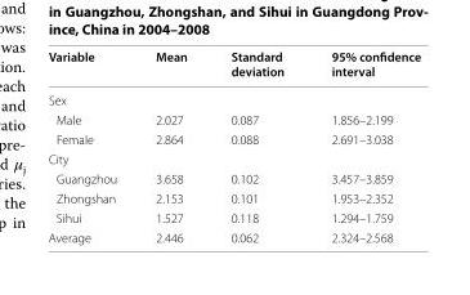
<table><thead><tr><td>Variable</td><td>Mean</td><td>Standard deviation</td><td>95% confidence interval</td></tr></thead><tbody><tr><td colspan="4">Sex</td></tr><tr><td>Male</td><td>2.027</td><td>0.087</td><td>1.856–2.199</td></tr><tr><td>Female</td><td>2.864</td><td>0.088</td><td>2.691–3.038</td></tr><tr><td colspan="4">City</td></tr><tr><td>Guangzhou</td><td>3.658</td><td>0.102</td><td>3.457–3.859</td></tr><tr><td>Zhongshan</td><td>2.153</td><td>0.101</td><td>1.953–2.352</td></tr><tr><td>Sihui</td><td>1.527</td><td>0.118</td><td>1.294–1.759</td></tr><tr><td>Average</td><td>2.446</td><td>0.062</td><td>2.324–2.568</td></tr></tbody></table>